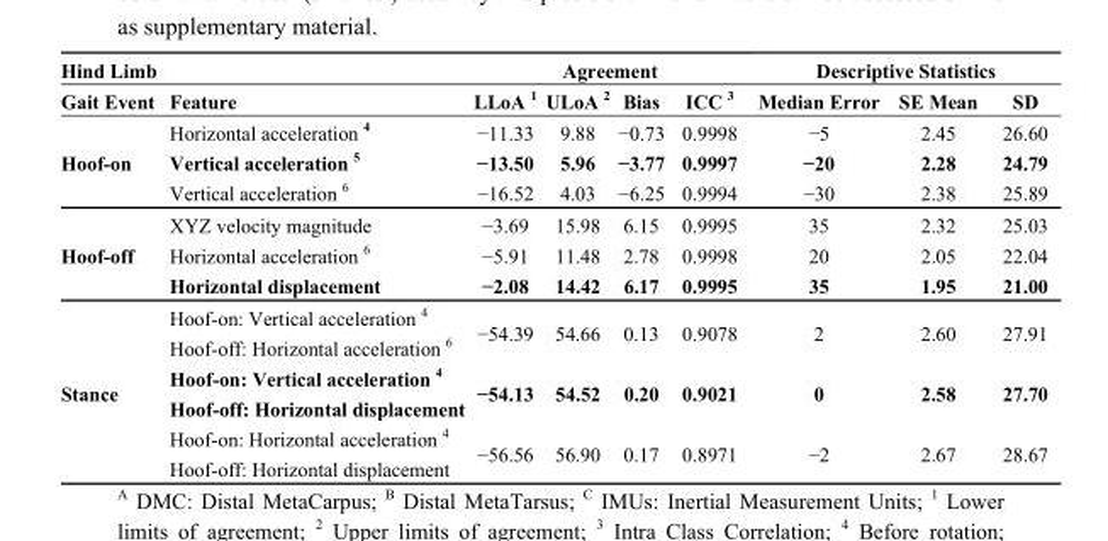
<table><thead><tr><td rowspan="2">Hind Limb Gait Event</td><td rowspan="2">Feature</td><td colspan="4">Agreement</td><td colspan="3">Descriptive Statistics</td></tr><tr><td>LLoA <sup>1</sup></td><td>ULoA <sup>2</sup></td><td>Bias</td><td>ICC <sup>3</sup></td><td>Median Error</td><td>SE Mean</td><td>SD</td></tr></thead><tbody><tr><td rowspan="3">Hoof-on</td><td>Horizontal acceleration <sup>4</sup></td><td>−11.33</td><td>9.88</td><td>−0.73</td><td>0.9998</td><td>−5</td><td>2.45</td><td>26.60</td></tr><tr><td>Vertical acceleration <sup>5</sup></td><td>−13.50</td><td>5.96</td><td>−3.77</td><td>0.9997</td><td>−20</td><td>2.28</td><td>24.79</td></tr><tr><td>Vertical acceleration <sup>6</sup></td><td>−16.52</td><td>4.03</td><td>−6.25</td><td>0.9994</td><td>−30</td><td>2.38</td><td>25.89</td></tr><tr><td rowspan="3">Hoof-off</td><td>XYZ velocity magnitude</td><td>−3.69</td><td>15.98</td><td>6.15</td><td>0.9995</td><td>35</td><td>2.32</td><td>25.03</td></tr><tr><td>Horizontal acceleration <sup>6</sup></td><td>−5.91</td><td>11.48</td><td>2.78</td><td>0.9998</td><td>20</td><td>2.05</td><td>22.04</td></tr><tr><td>Horizontal displacement</td><td>−2.08</td><td>14.42</td><td>6.17</td><td>0.9995</td><td>35</td><td>1.95</td><td>21.00</td></tr><tr><td rowspan="3">Stance</td><td>Hoof-on: Vertical acceleration <sup>4</sup> Hoof-off: Horizontal acceleration <sup>6</sup></td><td>−54.39</td><td>54.66</td><td>0.13</td><td>0.9078</td><td>2</td><td>2.60</td><td>27.91</td></tr><tr><td>Hoof-on: Vertical acceleration <sup>4</sup> Hoof-off: Horizontal displacement</td><td>−54.13</td><td>54.52</td><td>0.20</td><td>0.9021</td><td>0</td><td>2.58</td><td>27.70</td></tr><tr><td>Hoof-on: Horizontal acceleration <sup>4</sup> Hoof-off: Horizontal displacement</td><td>−56.56</td><td>56.90</td><td>0.17</td><td>0.8971</td><td>−2</td><td>2.67</td><td>28.67</td></tr></tbody></table>